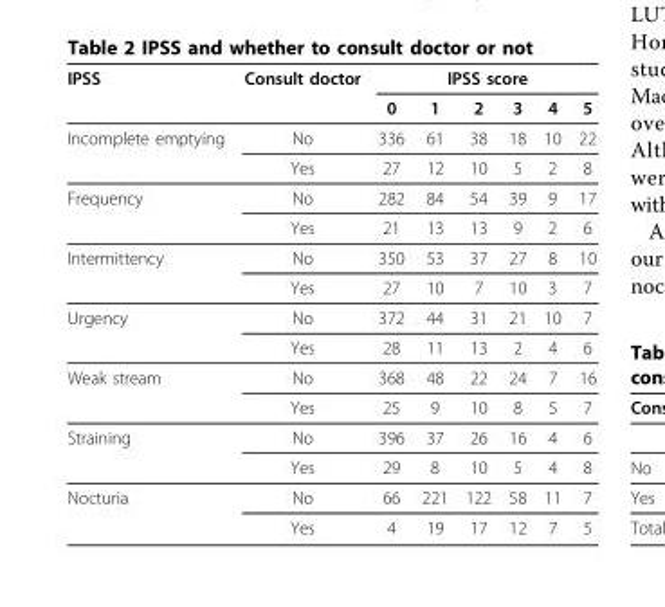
<table><thead><tr><td rowspan="2">IPSS</td><td rowspan="2">Consult doctor</td><td colspan="6">IPSS score</td></tr><tr><td>0</td><td>1</td><td>2</td><td>3</td><td>4</td><td>5</td></tr></thead><tbody><tr><td rowspan="2">Incomplete emptying</td><td>No</td><td>336</td><td>61</td><td>38</td><td>18</td><td>10</td><td>22</td></tr><tr><td>Yes</td><td>27</td><td>12</td><td>10</td><td>5</td><td>2</td><td>8</td></tr><tr><td rowspan="2">Frequency</td><td>No</td><td>282</td><td>84</td><td>54</td><td>39</td><td>9</td><td>17</td></tr><tr><td>Yes</td><td>21</td><td>13</td><td>13</td><td>9</td><td>2</td><td>6</td></tr><tr><td rowspan="2">Intermittency</td><td>No</td><td>350</td><td>53</td><td>37</td><td>27</td><td>8</td><td>10</td></tr><tr><td>Yes</td><td>27</td><td>10</td><td>7</td><td>10</td><td>3</td><td>7</td></tr><tr><td rowspan="2">Urgency</td><td>No</td><td>372</td><td>44</td><td>31</td><td>21</td><td>10</td><td>7</td></tr><tr><td>Yes</td><td>28</td><td>11</td><td>13</td><td>2</td><td>4</td><td>6</td></tr><tr><td rowspan="2">Weak stream</td><td>No</td><td>368</td><td>48</td><td>22</td><td>24</td><td>7</td><td>16</td></tr><tr><td>Yes</td><td>25</td><td>9</td><td>10</td><td>8</td><td>5</td><td>7</td></tr><tr><td rowspan="2">Straining</td><td>No</td><td>396</td><td>37</td><td>26</td><td>16</td><td>4</td><td>6</td></tr><tr><td>Yes</td><td>29</td><td>8</td><td>10</td><td>5</td><td>4</td><td>8</td></tr><tr><td rowspan="2">Nocturia</td><td>No</td><td>66</td><td>221</td><td>122</td><td>58</td><td>11</td><td>7</td></tr><tr><td>Yes</td><td>4</td><td>19</td><td>17</td><td>12</td><td>7</td><td>5</td></tr></tbody></table>